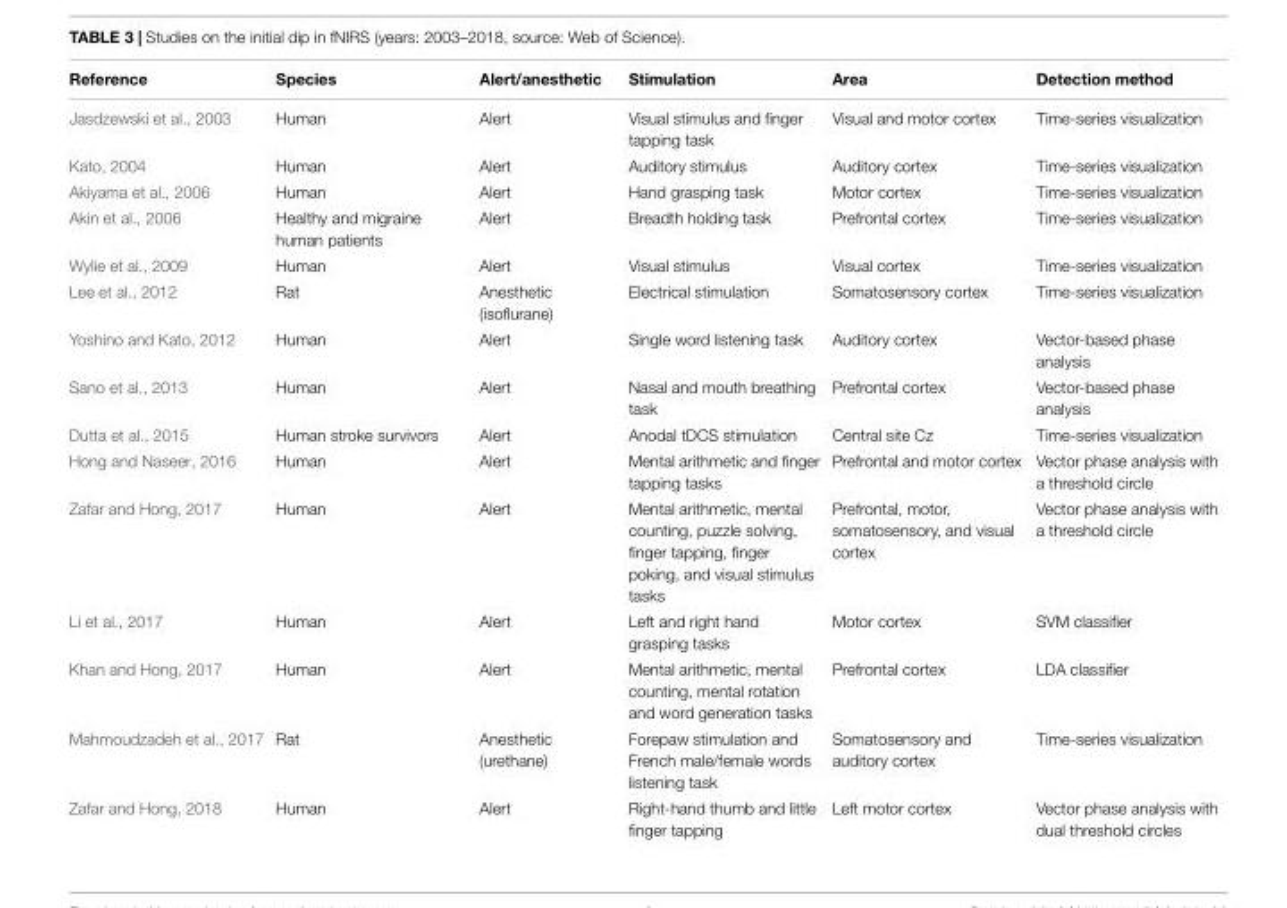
<table><thead><tr><td>Reference</td><td>Species</td><td>Alert/anesthetic</td><td>Stimulation</td><td>Area</td><td>Detection method</td></tr></thead><tbody><tr><td>Jasdzewski et al., 2003</td><td>Human</td><td>Alert</td><td>Visual stimulus and finger tapping task</td><td>Visual and motor cortex</td><td>Time-series visualization</td></tr><tr><td>Kato, 2004</td><td>Human</td><td>Alert</td><td>Auditory stimulus</td><td>Auditory cortex</td><td>Time-series visualization</td></tr><tr><td>Akiyama et al., 2006</td><td>Human</td><td>Alert</td><td>Hand grasping task</td><td>Motor cortex</td><td>Time-series visualization</td></tr><tr><td>Akin et al., 2006</td><td>Healthy and migraine human patients</td><td>Alert</td><td>Breadth holding task</td><td>Prefrontal cortex</td><td>Time-series visualization</td></tr><tr><td>Wylie et al., 2009</td><td>Human</td><td>Alert</td><td>Visual stimulus</td><td>Visual cortex</td><td>Time-series visualization</td></tr><tr><td>Lee et al., 2012</td><td>Rat</td><td>Anesthetic (isoflurane)</td><td>Electrical stimulation</td><td>Somatosensory cortex</td><td>Time-series visualization</td></tr><tr><td>Yoshino and Kato, 2012</td><td>Human</td><td>Alert</td><td>Single word listening task</td><td>Auditory cortex</td><td>Vector-based phase analysis</td></tr><tr><td>Sano et al., 2013</td><td>Human</td><td>Alert</td><td>Nasal and mouth breathing task</td><td>Prefrontal cortex</td><td>Vector-based phase analysis</td></tr><tr><td>Dutta et al., 2015</td><td>Human stroke survivors</td><td>Alert</td><td>Anodal tDCS stimulation</td><td>Central site Cz</td><td>Time-series visualization</td></tr><tr><td>Hong and Naseer, 2016</td><td>Human</td><td>Alert</td><td>Mental arithmetic and finger tapping tasks</td><td>Prefrontal and motor cortex</td><td>Vector phase analysis with a threshold circle</td></tr><tr><td>Zafar and Hong, 2017</td><td>Human</td><td>Alert</td><td>Mental arithmetic, mental counting, puzzle solving, finger tapping, finger poking, and visual stimulus tasks</td><td>Prefrontal, motor, somatosensory, and visual cortex</td><td>Vector phase analysis with a threshold circle</td></tr><tr><td>Li et al., 2017</td><td>Human</td><td>Alert</td><td>Left and right hand grasping tasks</td><td>Motor cortex</td><td>SVM classifier</td></tr><tr><td>Khan and Hong, 2017</td><td>Human</td><td>Alert</td><td>Mental arithmetic, mental counting, mental rotation and word generation tasks</td><td>Prefrontal cortex</td><td>LDA classifier</td></tr><tr><td>Mahmoudzadeh et al., 2017</td><td>Rat</td><td>Anesthetic (urethane)</td><td>Forepaw stimulation and French male/female words listening task</td><td>Somatosensory and auditory cortex</td><td>Time-series visualization</td></tr><tr><td>Zafar and Hong, 2018</td><td>Human</td><td>Alert</td><td>Right-hand thumb and little finger tapping</td><td>Left motor cortex</td><td>Vector phase analysis with dual threshold circles</td></tr></tbody></table>